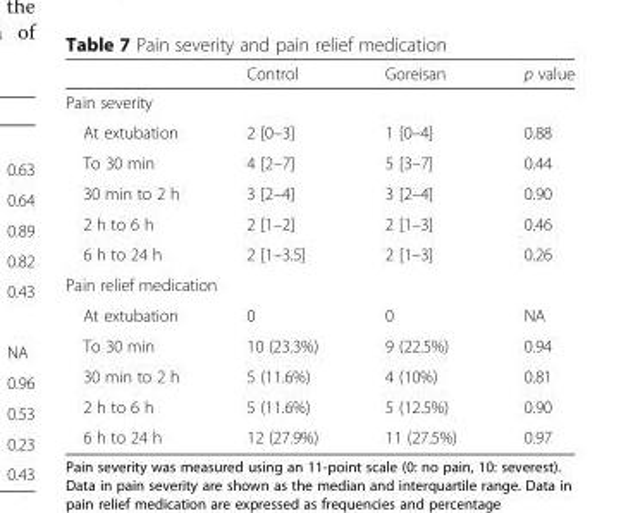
<table><thead><tr><td></td><td>Control</td><td>Goreisan</td><td>p value</td></tr></thead><tbody><tr><td colspan="4">Pain severity</td></tr><tr><td>At extubation</td><td>2 [0–3]</td><td>1 [0–4]</td><td>0.88</td></tr><tr><td>To 30 min</td><td>4 [2–7]</td><td>5 [3–7]</td><td>0.44</td></tr><tr><td>30 min to 2 h</td><td>3 [2–4]</td><td>3 [2–4]</td><td>0.90</td></tr><tr><td>2 h to 6 h</td><td>2 [1–2]</td><td>2 [1–3]</td><td>0.46</td></tr><tr><td>6 h to 24 h</td><td>2 [1–3.5]</td><td>2 [1–3]</td><td>0.26</td></tr><tr><td colspan="4">Pain relief medication</td></tr><tr><td>At extubation</td><td>0</td><td>0</td><td>NA</td></tr><tr><td>To 30 min</td><td>10 (23.3%)</td><td>9 (22.5%)</td><td>0.94</td></tr><tr><td>30 min to 2 h</td><td>5 (11.6%)</td><td>4 (10%)</td><td>0.81</td></tr><tr><td>2 h to 6 h</td><td>5 (11.6%)</td><td>5 (12.5%)</td><td>0.90</td></tr><tr><td>6 h to 24 h</td><td>12 (27.9%)</td><td>11 (27.5%)</td><td>0.97</td></tr></tbody></table>